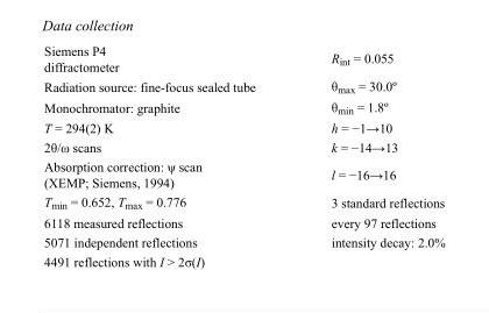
<table><tbody><tr><td>Siemens P4 diffractometer</td><td>R<sub>int</sub> = 0.055</td></tr><tr><td>Radiation source: fine-focus sealed tube</td><td>θ<sub>max</sub> = 30.0º</td></tr><tr><td>Monochromator: graphite</td><td>θ<sub>min</sub> = 1.8º</td></tr><tr><td>T = 294(2) K</td><td>h = −1→10</td></tr><tr><td>2θ/ω scans</td><td>k = −14→13</td></tr><tr><td>Absorption correction: ψ scan (XEMP; Siemens, 1994)</td><td>l = −16→16</td></tr><tr><td>T<sub>min</sub> = 0.652, T<sub>max</sub> = 0.776</td><td>3 standard reflections</td></tr><tr><td>6118 measured reflections</td><td>every 97 reflections</td></tr><tr><td>5071 independent reflections</td><td>intensity decay: 2.0%</td></tr><tr><td>4491 reflections with I &gt; 2σ(I)</td><td></td></tr></tbody></table>